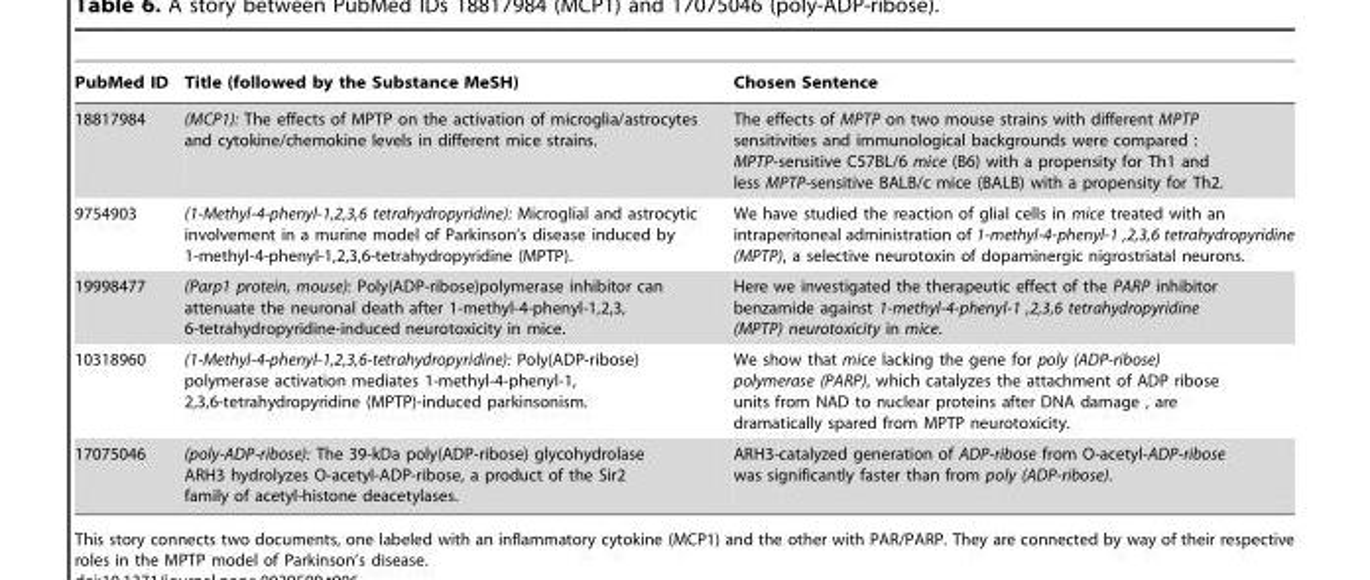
<table><thead><tr><td>PubMed ID</td><td>Title (followed by the Substance MeSH)</td><td>Chosen Sentence</td></tr></thead><tbody><tr><td>18817984</td><td>(MCP1): The effects of MPTP on the activation of microglia/astrocytes and cytokine/chemokine levels in different mice strains.</td><td>The effects of MPTP on two mouse strains with different MPTP sensitivities and immunological backgrounds were compared : MPTP-sensitive C57BL/6 mice (B6) with a propensity for Th1 and less MPTP-sensitive BALB/c mice (BALB) with a propensity for Th2.</td></tr><tr><td>9754903</td><td>(1-Methyl-4-phenyl-1,2,3,6 tetrahydropyridine): Microglial and astrocytic involvement in a murine model of Parkinson’s disease induced by 1-methyl-4-phenyl-1,2,3,6-tetrahydropyridine (MPTP).</td><td>We have studied the reaction of glial cells in mice treated with an intraperitoneal administration of 1-methyl-4-phenyl-1 ,2,3,6 tetrahydropyridine (MPTP), a selective neurotoxin of dopaminergic nigrostriatal neurons.</td></tr><tr><td>19998477</td><td>(Parp1 protein, mouse): Poly(ADP-ribose)polymerase inhibitor can attenuate the neuronal death after 1-methyl-4-phenyl-1,2,3, 6-tetrahydropyridine-induced neurotoxicity in mice.</td><td>Here we investigated the therapeutic effect of the PARP inhibitor benzamide against 1-methyl-4-phenyl-1 ,2,3,6 tetrahydropyridine (MPTP) neurotoxicity in mice.</td></tr><tr><td>10318960</td><td>(1-Methyl-4-phenyl-1,2,3,6-tetrahydropyridine): Poly(ADP-ribose) polymerase activation mediates 1-methyl-4-phenyl-1, 2,3,6-tetrahydropyridine (MPTP)-induced parkinsonism.</td><td>We show that mice lacking the gene for poly (ADP-ribose) polymerase (PARP), which catalyzes the attachment of ADP ribose units from NAD to nuclear proteins after DNA damage , are dramatically spared from MPTP neurotoxicity.</td></tr><tr><td>17075046</td><td>(poly-ADP-ribose): The 39-kDa poly(ADP-ribose) glycohydrolase ARH3 hydrolyzes O-acetyl-ADP-ribose, a product of the Sir2 family of acetyl-histone deacetylases.</td><td>ARH3-catalyzed generation of ADP-ribose from O-acetyl-ADP-ribose was significantly faster than from poly (ADP-ribose).</td></tr></tbody></table>